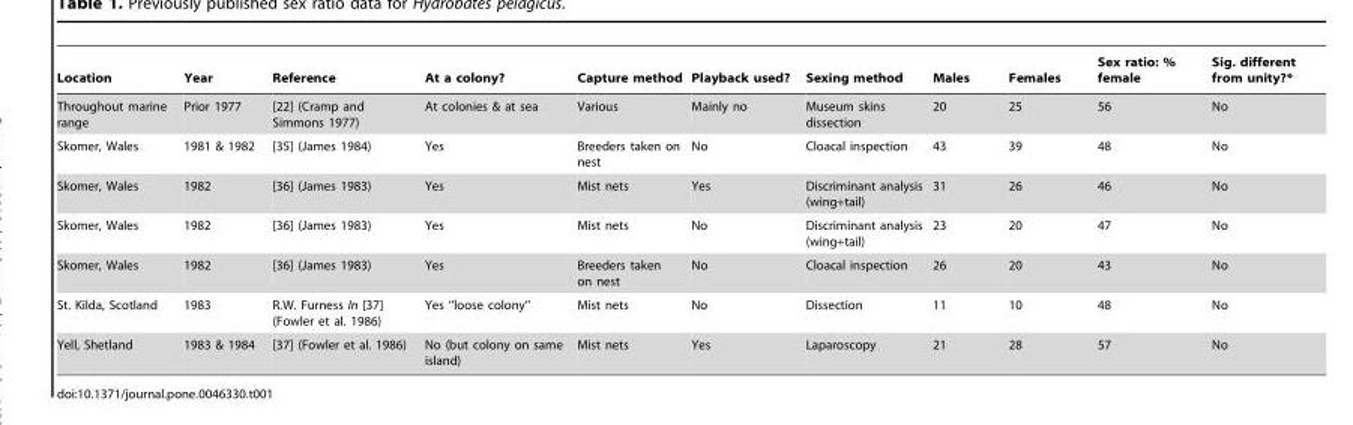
<table><thead><tr><td>Location</td><td>Year</td><td>Reference</td><td>At a colony?</td><td>Capture method</td><td>Playback used?</td><td>Sexing method</td><td>Males</td><td>Females</td><td>Sex ratio: % female</td><td>Sig. different from unity?*</td></tr></thead><tbody><tr><td>Throughout marine range</td><td>Prior 1977</td><td>[22] (Cramp and Simmons 1977)</td><td>At colonies &amp; at sea</td><td>Various</td><td>Mainly no</td><td>Museum skins dissection</td><td>20</td><td>25</td><td>56</td><td>No</td></tr><tr><td>Skomer, Wales</td><td>1981 &amp; 1982</td><td>[35] (James 1984)</td><td>Yes</td><td>Breeders taken on nest</td><td>No</td><td>Cloacal inspection</td><td>43</td><td>39</td><td>48</td><td>No</td></tr><tr><td>Skomer, Wales</td><td>1982</td><td>[36] (James 1983)</td><td>Yes</td><td>Mist nets</td><td>Yes</td><td>Discriminant analysis (wing+tail)</td><td>31</td><td>26</td><td>46</td><td>No</td></tr><tr><td>Skomer, Wales</td><td>1982</td><td>[36] (James 1983)</td><td>Yes</td><td>Mist nets</td><td>No</td><td>Discriminant analysis (wing+tail)</td><td>23</td><td>20</td><td>47</td><td>No</td></tr><tr><td>Skomer, Wales</td><td>1982</td><td>[36] (James 1983)</td><td>Yes</td><td>Breeders taken on nest</td><td>No</td><td>Cloacal inspection</td><td>26</td><td>20</td><td>43</td><td>No</td></tr><tr><td>St. Kilda, Scotland</td><td>1983</td><td>R.W. Furness In [37] (Fowler et al. 1986)</td><td>Yes ‘‘loose colony’’</td><td>Mist nets</td><td>No</td><td>Dissection</td><td>11</td><td>10</td><td>48</td><td>No</td></tr><tr><td>Yell, Shetland</td><td>1983 &amp; 1984</td><td>[37] (Fowler et al. 1986)</td><td>No (but colony on same island)</td><td>Mist nets</td><td>Yes</td><td>Laparoscopy</td><td>21</td><td>28</td><td>57</td><td>No</td></tr></tbody></table>